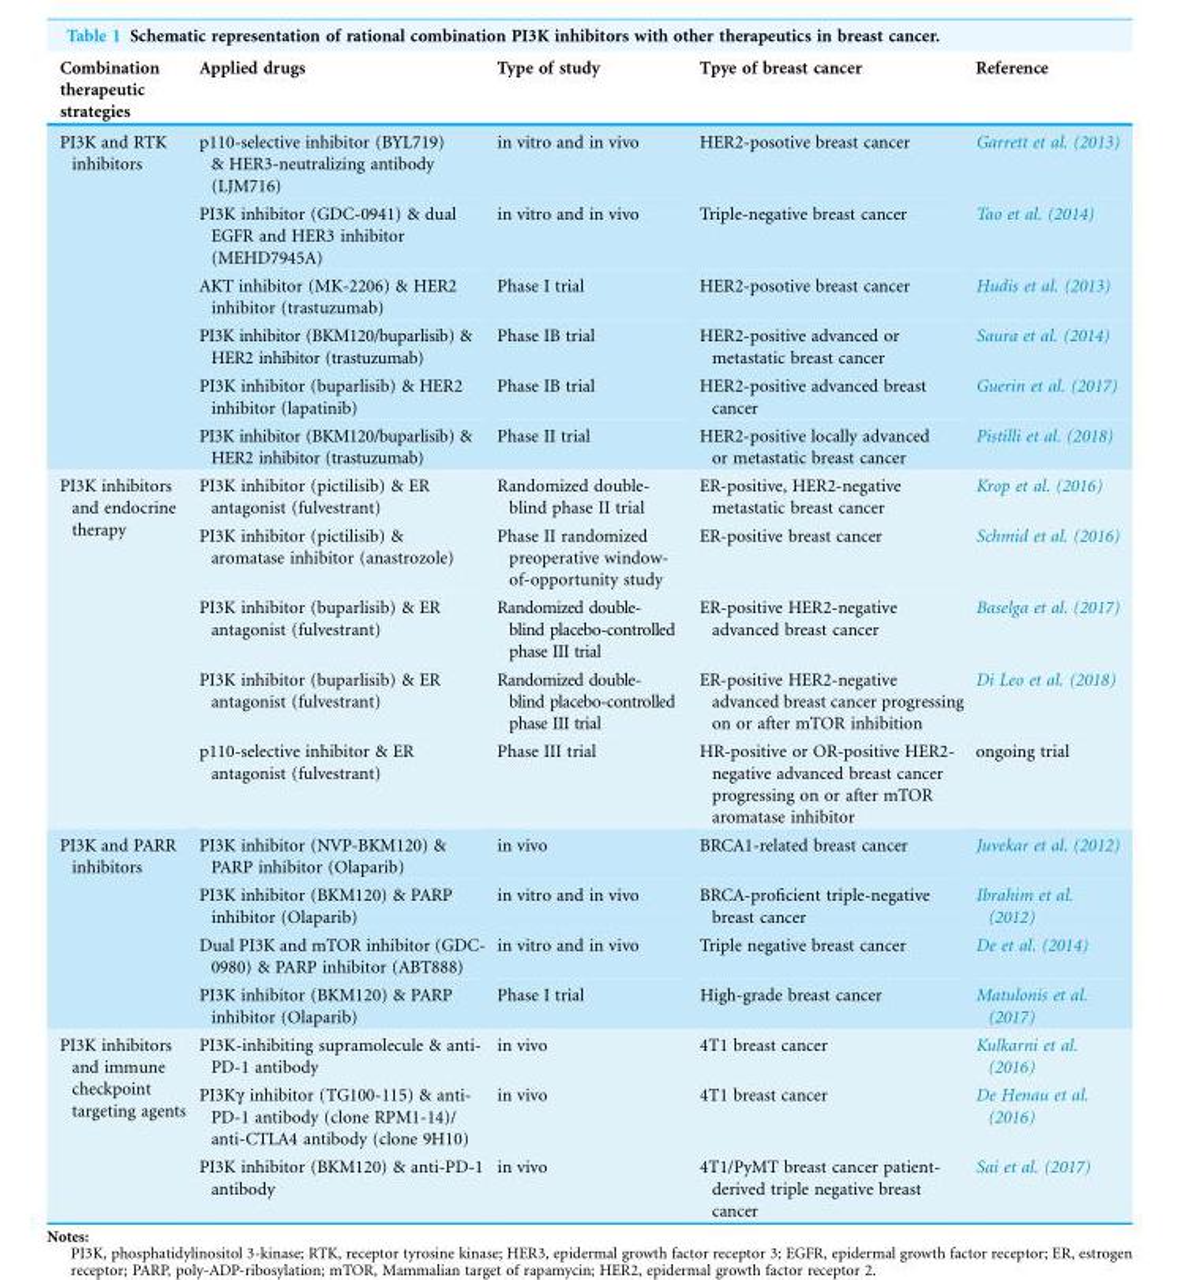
<table><thead><tr><td>Combination therapeutic strategies</td><td>Applied drugs</td><td>Type of study</td><td>Tpye of breast cancer</td><td>Reference</td></tr></thead><tbody><tr><td rowspan="6">PI3K and RTK inhibitors</td><td>p110-selective inhibitor (BYL719) &amp; HER3-neutralizing antibody (LJM716)</td><td>in vitro and in vivo</td><td>HER2-posotive breast cancer</td><td>Garrett et al. (2013)</td></tr><tr><td>PI3K inhibitor (GDC-0941) &amp; dual EGFR and HER3 inhibitor (MEHD7945A)</td><td>in vitro and in vivo</td><td>Triple-negative breast cancer</td><td>Tao et al. (2014)</td></tr><tr><td>AKT inhibitor (MK-2206) &amp; HER2 inhibitor (trastuzumab)</td><td>Phase I trial</td><td>HER2-posotive breast cancer</td><td>Hudis et al. (2013)</td></tr><tr><td>PI3K inhibitor (BKM120/buparlisib) &amp; HER2 inhibitor (trastuzumab)</td><td>Phase IB trial</td><td>HER2-positive advanced or metastatic breast cancer</td><td>Saura et al. (2014)</td></tr><tr><td>PI3K inhibitor (buparlisib) &amp; HER2 inhibitor (lapatinib)</td><td>Phase IB trial</td><td>HER2-positive advanced breast cancer</td><td>Guerin et al. (2017)</td></tr><tr><td>PI3K inhibitor (BKM120/buparlisib) &amp; HER2 inhibitor (trastuzumab)</td><td>Phase II trial</td><td>HER2-positive locally advanced or metastatic breast cancer</td><td>Pistilli et al. (2018)</td></tr><tr><td rowspan="5">PI3K inhibitors and endocrine therapy</td><td>PI3K inhibitor (pictilisib) &amp; ER antagonist (fulvestrant)</td><td>Randomized double- blind phase II trial</td><td>ER-positive, HER2-negative metastatic breast cancer</td><td>Krop et al. (2016)</td></tr><tr><td>PI3K inhibitor (pictilisib) &amp; aromatase inhibitor (anastrozole)</td><td>Phase II randomized preoperative window- of-opportunity study</td><td>ER-positive breast cancer</td><td>Schmid et al. (2016)</td></tr><tr><td>PI3K inhibitor (buparlisib) &amp; ER antagonist (fulvestrant)</td><td>Randomized double- blind placebo-controlled phase III trial</td><td>ER-positive HER2-negative advanced breast cancer</td><td>Baselga et al. (2017)</td></tr><tr><td>PI3K inhibitor (buparlisib) &amp; ER antagonist (fulvestrant)</td><td>Randomized double- blind placebo-controlled phase III trial</td><td>ER-positive HER2-negative advanced breast cancer progressing on or after mTOR inhibition</td><td>Di Leo et al. (2018)</td></tr><tr><td>p110-selective inhibitor &amp; ER antagonist (fulvestrant)</td><td>Phase III trial</td><td>HR-positive or OR-positive HER2- negative advanced breast cancer progressing on or after mTOR aromatase inhibitor</td><td>ongoing trial</td></tr><tr><td rowspan="4">PI3K and PARR inhibitors</td><td>PI3K inhibitor (NVP-BKM120) &amp; PARP inhibitor (Olaparib)</td><td>in vivo</td><td>BRCA1-related breast cancer</td><td>Juvekar et al. (2012)</td></tr><tr><td>PI3K inhibitor (BKM120) &amp; PARP inhibitor (Olaparib)</td><td>in vitro and in vivo</td><td>BRCA-proficient triple-negative breast cancer</td><td>Ibrahim et al. (2012)</td></tr><tr><td>Dual PI3K and mTOR inhibitor (GDC- 0980) &amp; PARP inhibitor (ABT888)</td><td>in vitro and in vivo</td><td>Triple negative breast cancer</td><td>De et al. (2014)</td></tr><tr><td>PI3K inhibitor (BKM120) &amp; PARP inhibitor (Olaparib)</td><td>Phase I trial</td><td>High-grade breast cancer</td><td>Matulonis et al. (2017)</td></tr><tr><td rowspan="3">PI3K inhibitors and immune checkpoint targeting agents</td><td>PI3K-inhibiting supramolecule &amp; anti- PD-1 antibody</td><td>in vivo</td><td>4T1 breast cancer</td><td>Kulkarni et al. (2016)</td></tr><tr><td>PI3Kγ inhibitor (TG100-115) &amp; anti- PD-1 antibody (clone RPM1-14)/ anti-CTLA4 antibody (clone 9H10)</td><td>in vivo</td><td>4T1 breast cancer</td><td>De Henau et al. (2016)</td></tr><tr><td>PI3K inhibitor (BKM120) &amp; anti-PD-1 antibody</td><td>in vivo</td><td>4T1/PyMT breast cancer patient- derived triple negative breast cancer</td><td>Sai et al. (2017)</td></tr></tbody></table>